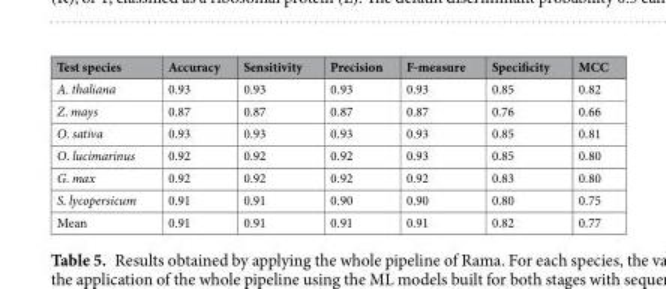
<table><thead><tr><td>Test species</td><td>Accuracy</td><td>Sensitivity</td><td>Precision</td><td>F-measure</td><td>Specificity</td><td>MCC</td></tr></thead><tbody><tr><td>A. thaliana</td><td>0.93</td><td>0.93</td><td>0.93</td><td>0.93</td><td>0.85</td><td>0.82</td></tr><tr><td>Z. mays</td><td>0.87</td><td>0.87</td><td>0.87</td><td>0.87</td><td>0.76</td><td>0.66</td></tr><tr><td>O. sativa</td><td>0.93</td><td>0.93</td><td>0.93</td><td>0.93</td><td>0.85</td><td>0.81</td></tr><tr><td>O. lucimarinus</td><td>0.92</td><td>0.92</td><td>0.92</td><td>0.93</td><td>0.85</td><td>0.80</td></tr><tr><td>G. max</td><td>0.92</td><td>0.92</td><td>0.92</td><td>0.92</td><td>0.83</td><td>0.80</td></tr><tr><td>S. lycopersicum</td><td>0.91</td><td>0.91</td><td>0.90</td><td>0.90</td><td>0.80</td><td>0.75</td></tr><tr><td>Mean</td><td>0.91</td><td>0.91</td><td>0.91</td><td>0.91</td><td>0.82</td><td>0.77</td></tr></tbody></table>